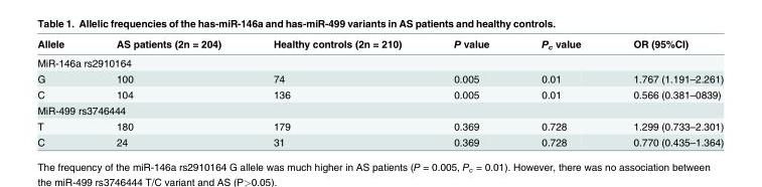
<table><thead><tr><td>Allele</td><td>AS patients (2n = 204)</td><td>Healthy controls (2n = 210)</td><td>P value</td><td>P<sub>c</sub> value</td><td>OR (95%CI)</td></tr></thead><tbody><tr><td colspan="6">MiR-146a rs2910164</td></tr><tr><td>G</td><td>100</td><td>74</td><td>0.005</td><td>0.01</td><td>1.767 (1.191–2.261)</td></tr><tr><td>C</td><td>104</td><td>136</td><td>0.005</td><td>0.01</td><td>0.566 (0.381–0839)</td></tr><tr><td colspan="6">MiR-499 rs3746444</td></tr><tr><td>T</td><td>180</td><td>179</td><td>0.369</td><td>0.728</td><td>1.299 (0.733–2.301)</td></tr><tr><td>C</td><td>24</td><td>31</td><td>0.369</td><td>0.728</td><td>0.770 (0.435–1.364)</td></tr></tbody></table>